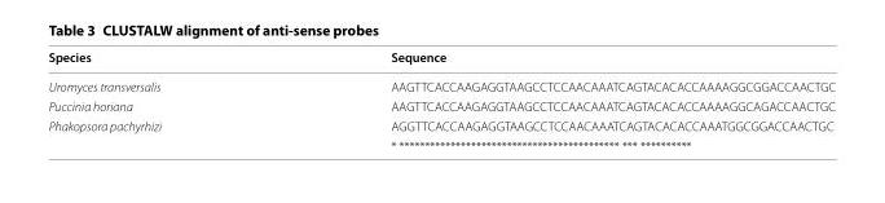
<table><thead><tr><td>Species</td><td>Sequence</td></tr></thead><tbody><tr><td>Uromyces transversalis</td><td>AAGTTCACCAAGAGGTAAGCCTCCAACAAATCAGTACACACCAAAAGGCGGACCAACTGC</td></tr><tr><td>Puccinia horiana</td><td>AAGTTCACCAAGAGGTAAGCCTCCAACAAATCAGTACACACCAAAAGGCAGACCAACTGC</td></tr><tr><td rowspan="2">Phakopsora pachyrhizi</td><td>AGGTTCACCAAGAGGTAAGCCTCCAACAAATCAGTACACACCAAATGGCGGACCAACTGC</td></tr><tr><td>* ******************************************* *** **********</td></tr></tbody></table>